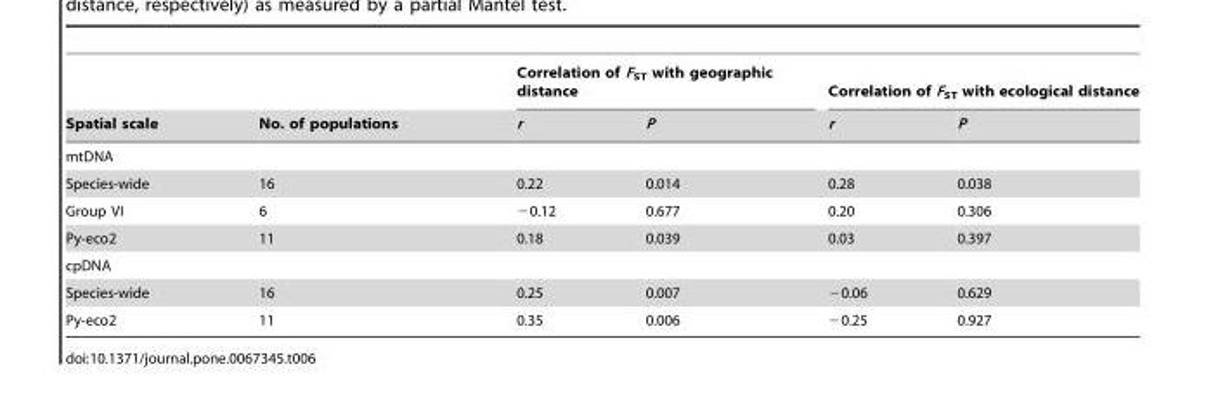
<table><thead><tr><td rowspan="2">Spatial scale</td><td rowspan="2">No. of populations</td><td colspan="2">Correlation of F<sub>ST</sub> with geographic distance</td><td colspan="2">Correlation of F<sub>ST</sub> with ecological distance</td></tr><tr><td>r</td><td>P</td><td>r</td><td>P</td></tr></thead><tbody><tr><td colspan="6">mtDNA</td></tr><tr><td>Species-wide</td><td>16</td><td>0.22</td><td>0.014</td><td>0.28</td><td>0.038</td></tr><tr><td>Group VI</td><td>6</td><td>−0.12</td><td>0.677</td><td>0.20</td><td>0.306</td></tr><tr><td>Py-eco2</td><td>11</td><td>0.18</td><td>0.039</td><td>0.03</td><td>0.397</td></tr><tr><td colspan="6">cpDNA</td></tr><tr><td>Species-wide</td><td>16</td><td>0.25</td><td>0.007</td><td>−0.06</td><td>0.629</td></tr><tr><td>Py-eco2</td><td>11</td><td>0.35</td><td>0.006</td><td>−0.25</td><td>0.927</td></tr></tbody></table>